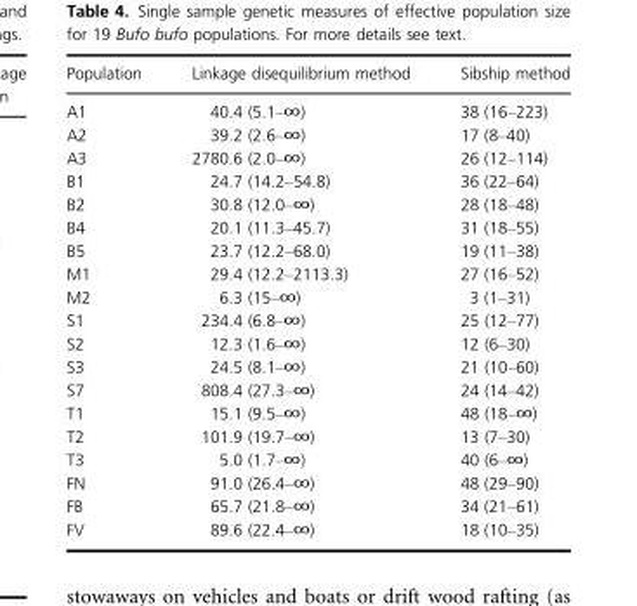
<table><thead><tr><td>Population</td><td>Linkage disequilibrium method</td><td>Sibship method</td></tr></thead><tbody><tr><td>A1</td><td>40.4 (5.1–∞)</td><td>38 (16–223)</td></tr><tr><td>A2</td><td>39.2 (2.6–∞)</td><td>17 (8–40)</td></tr><tr><td>A3</td><td>2780.6 (2.0–∞)</td><td>26 (12–114)</td></tr><tr><td>B1</td><td>24.7 (14.2–54.8)</td><td>36 (22–64)</td></tr><tr><td>B2</td><td>30.8 (12.0–∞)</td><td>28 (18–48)</td></tr><tr><td>B4</td><td>20.1 (11.3–45.7)</td><td>31 (18–55)</td></tr><tr><td>B5</td><td>23.7 (12.2–68.0)</td><td>19 (11–38)</td></tr><tr><td>M1</td><td>29.4 (12.2–2113.3)</td><td>27 (16–52)</td></tr><tr><td>M2</td><td>6.3 (15–∞)</td><td>3 (1–31)</td></tr><tr><td>S1</td><td>234.4 (6.8–∞)</td><td>25 (12–77)</td></tr><tr><td>S2</td><td>12.3 (1.6–∞)</td><td>12 (6–30)</td></tr><tr><td>S3</td><td>24.5 (8.1–∞)</td><td>21 (10–60)</td></tr><tr><td>S7</td><td>808.4 (27.3–∞)</td><td>24 (14–42)</td></tr><tr><td>T1</td><td>15.1 (9.5–∞)</td><td>48 (18–∞)</td></tr><tr><td>T2</td><td>101.9 (19.7–∞)</td><td>13 (7–30)</td></tr><tr><td>T3</td><td>5.0 (1.7–∞)</td><td>40 (6–∞)</td></tr><tr><td>FN</td><td>91.0 (26.4–∞)</td><td>48 (29–90)</td></tr><tr><td>FB</td><td>65.7 (21.8–∞)</td><td>34 (21–61)</td></tr><tr><td>FV</td><td>89.6 (22.4–∞)</td><td>18 (10–35)</td></tr></tbody></table>